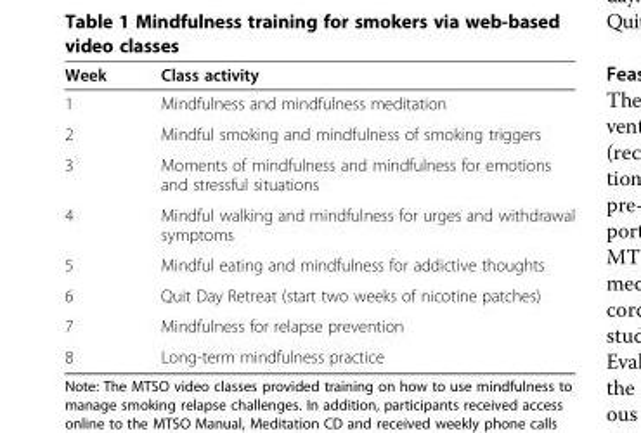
<table><thead><tr><td>Week</td><td>Class activity</td></tr></thead><tbody><tr><td>1</td><td>Mindfulness and mindfulness meditation</td></tr><tr><td>2</td><td>Mindful smoking and mindfulness of smoking triggers</td></tr><tr><td>3</td><td>Moments of mindfulness and mindfulness for emotions and stressful situations</td></tr><tr><td>4</td><td>Mindful walking and mindfulness for urges and withdrawal symptoms</td></tr><tr><td>5</td><td>Mindful eating and mindfulness for addictive thoughts</td></tr><tr><td>6</td><td>Quit Day Retreat (start two weeks of nicotine patches)</td></tr><tr><td>7</td><td>Mindfulness for relapse prevention</td></tr><tr><td>8</td><td>Long-term mindfulness practice</td></tr></tbody></table>